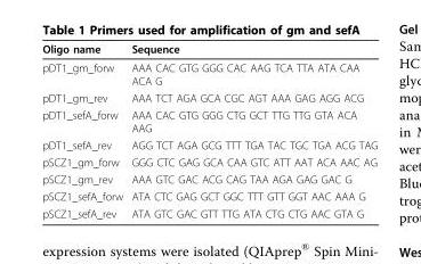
<table><thead><tr><td>Oligo name</td><td>Sequence</td></tr></thead><tbody><tr><td>pDT1_gm_forw</td><td>AAA CAC GTG GGG CAC AAG TCA TTA ATA CAA ACA G</td></tr><tr><td>pDT1_gm_rev</td><td>AAA TCT AGA GCA CGC AGT AAA GAG AGG ACG</td></tr><tr><td>pDT1_sefA_forw</td><td>AAA CAC GTG GGG CTG GCT TTG TTG GTA ACA AAG</td></tr><tr><td>pDT1_sefA_rev</td><td>AGG TCT AGA GCG TTT TGA TAC TGC TGA ACG TAG</td></tr><tr><td>pSCZ1_gm_forw</td><td>GGG CTC GAG GCA CAA GTC ATT AAT ACA AAC AG</td></tr><tr><td>pSCZ1_gm_rev</td><td>AAA GTC GAC ACG CAG TAA AGA GAG GAC G</td></tr><tr><td>pSCZ1_sefA_forw</td><td>ATA CTC GAG GCT GGC TTT GTT GGT AAC AAA G</td></tr><tr><td>pSCZ1_sefA_rev</td><td>ATA GTC GAC GTT TTG ATA CTG CTG AAC GTA G</td></tr></tbody></table>